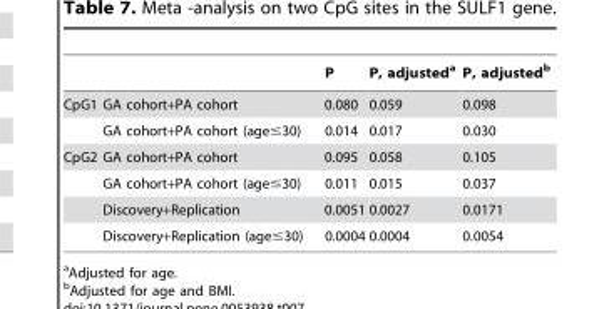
<table><thead><tr><td></td><td></td><td>P</td><td>P, adjusted<sup>a</sup></td><td>P, adjusted<sup>b</sup></td></tr></thead><tbody><tr><td rowspan="2">CpG1</td><td>GA cohort+PA cohort</td><td>0.080</td><td>0.059</td><td>0.098</td></tr><tr><td>GA cohort+PA cohort (age≤30)</td><td>0.014</td><td>0.017</td><td>0.030</td></tr><tr><td rowspan="4">CpG2</td><td>GA cohort+PA cohort</td><td>0.095</td><td>0.058</td><td>0.105</td></tr><tr><td>GA cohort+PA cohort (age≤30)</td><td>0.011</td><td>0.015</td><td>0.037</td></tr><tr><td>Discovery+Replication</td><td>0.0051</td><td>0.0027</td><td>0.0171</td></tr><tr><td>Discovery+Replication (age≤30)</td><td>0.0004</td><td>0.0004</td><td>0.0054</td></tr></tbody></table>